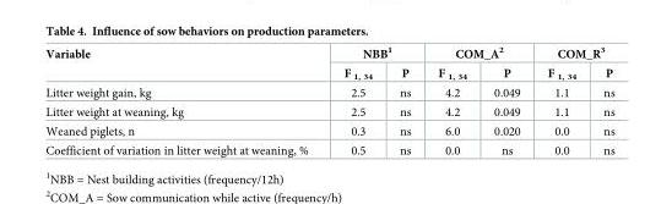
<table><thead><tr><td rowspan="2">Variable</td><td colspan="2">NBB<sup>1</sup></td><td colspan="2">COM_A<sup>2</sup></td><td colspan="2">COM_R<sup>3</sup></td></tr><tr><td>F <sub>1, 34</sub></td><td>P</td><td>F <sub>1, 34</sub></td><td>P</td><td>F <sub>1, 34</sub></td><td>P</td></tr></thead><tbody><tr><td>Litter weight gain, kg</td><td>2.5</td><td>ns</td><td>4.2</td><td>0.049</td><td>1.1</td><td>ns</td></tr><tr><td>Litter weight at weaning, kg</td><td>2.5</td><td>ns</td><td>4.2</td><td>0.049</td><td>1.1</td><td>ns</td></tr><tr><td>Weaned piglets, n</td><td>0.3</td><td>ns</td><td>6.0</td><td>0.020</td><td>0.0</td><td>ns</td></tr><tr><td>Coefficient of variation in litter weight at weaning, %</td><td>0.5</td><td>ns</td><td>0.0</td><td>ns</td><td>0.0</td><td>ns</td></tr></tbody></table>